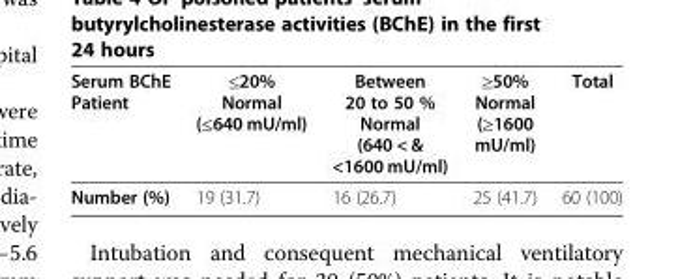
<table><thead><tr><td>Serum BChE Patient</td><td>≤20% Normal (≤640 mU/ml)</td><td>Between 20 to 50 % Normal (640 &lt; &amp; &lt;1600 mU/ml)</td><td>≥50% Normal (≥1600 mU/ml)</td><td>Total</td></tr></thead><tbody><tr><td>Number (%)</td><td>19 (31.7)</td><td>16 (26.7)</td><td>25 (41.7)</td><td>60 (100)</td></tr></tbody></table>